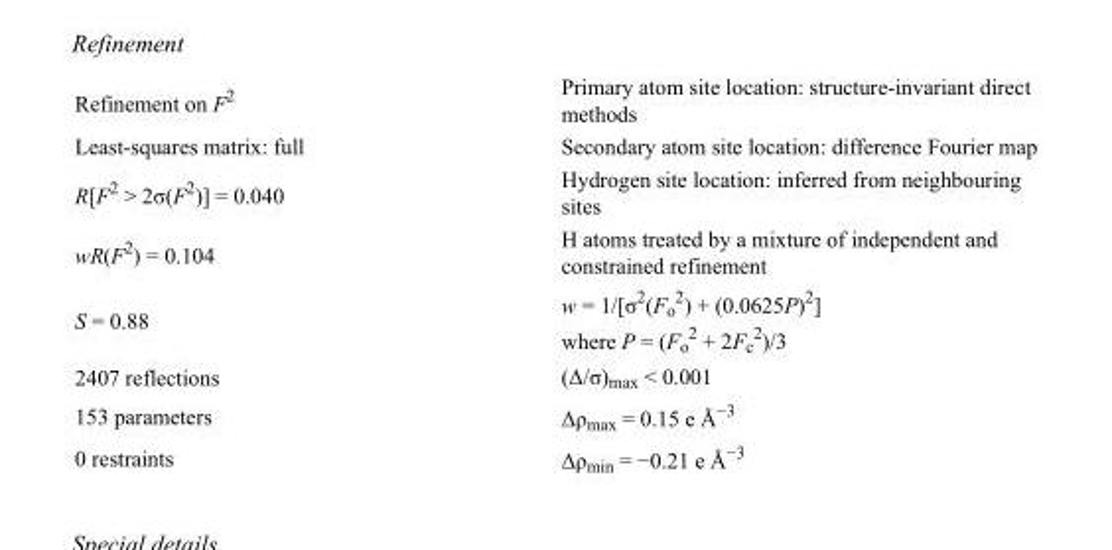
<table><tbody><tr><td>Refinement on F<sup>2</sup></td><td>Primary atom site location: structure-invariant direct methods</td></tr><tr><td>Least-squares matrix: full</td><td>Secondary atom site location: difference Fourier map</td></tr><tr><td>R[F<sup>2</sup> &gt; 2σ(F<sup>2</sup>)] = 0.040</td><td>Hydrogen site location: inferred from neighbouring sites</td></tr><tr><td>wR(F<sup>2</sup>) = 0.104</td><td>H atoms treated by a mixture of independent and constrained refinement</td></tr><tr><td>S = 0.88</td><td>w = 1/[σ<sup>2</sup>(F<sub>o</sub> <sup>2</sup>) + (0.0625P)<sup>2</sup>] where P = (F<sub>o</sub> <sup>2</sup> + 2F<sub>c</sub> <sup>2</sup>)/3</td></tr><tr><td>2407 reflections</td><td>(Δ/σ)<sub>max</sub> &lt; 0.001</td></tr><tr><td>153 parameters</td><td>Δρ<sub>max</sub> = 0.15 e Å<sup>−3</sup></td></tr><tr><td>0 restraints</td><td>Δρ<sub>min</sub> = −0.21 e Å<sup>−3</sup></td></tr></tbody></table>